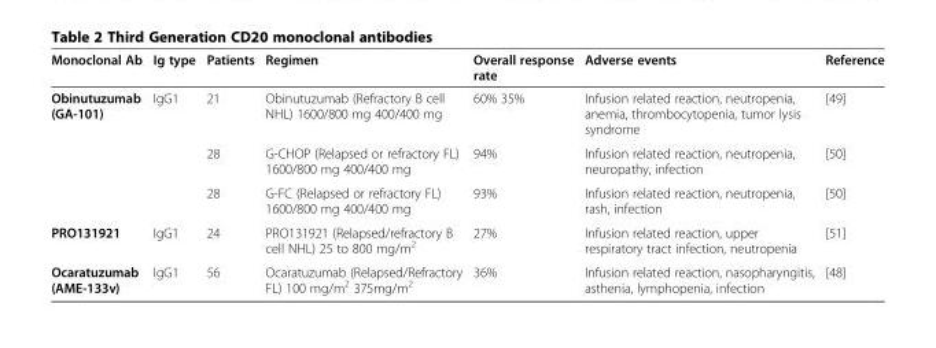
<table><thead><tr><td>Monoclonal Ab</td><td>Ig type</td><td>Patients</td><td>Regimen</td><td>Overall response rate</td><td>Adverse events</td><td>Reference</td></tr></thead><tbody><tr><td rowspan="3">Obinutuzumab (GA-101)</td><td rowspan="3">IgG1</td><td>21</td><td>Obinutuzumab (Refractory B cell NHL) 1600/800 mg 400/400 mg</td><td>60% 35%</td><td>Infusion related reaction, neutropenia, anemia, thrombocytopenia, tumor lysis syndrome</td><td>[49]</td></tr><tr><td>28</td><td>G-CHOP (Relapsed or refractory FL) 1600/800 mg 400/400 mg</td><td>94%</td><td>Infusion related reaction, neutropenia, neuropathy, infection</td><td>[50]</td></tr><tr><td>28</td><td>G-FC (Relapsed or refractory FL) 1600/800 mg 400/400 mg</td><td>93%</td><td>Infusion related reaction, neutropenia, rash, infection</td><td>[50]</td></tr><tr><td>PRO131921</td><td>IgG1</td><td>24</td><td>PRO131921 (Relapsed/refractory B cell NHL) 25 to 800 mg/m<sup>2</sup></td><td>27%</td><td>Infusion related reaction, upper respiratory tract infection, neutropenia</td><td>[51]</td></tr><tr><td>Ocaratuzumab (AME-133v)</td><td>IgG1</td><td>56</td><td>Ocaratuzumab (Relapsed/Refractory FL) 100 mg/m<sup>2</sup> 375mg/m<sup>2</sup></td><td>36%</td><td>Infusion related reaction, nasopharyngitis, asthenia, lymphopenia, infection</td><td>[48]</td></tr></tbody></table>